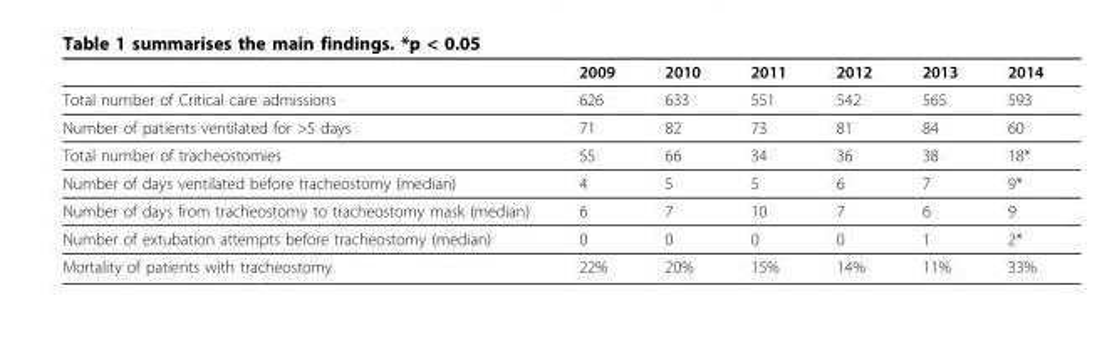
<table><thead><tr><td></td><td>2009</td><td>2010</td><td>2011</td><td>2012</td><td>2013</td><td>2014</td></tr></thead><tbody><tr><td>Total number of Critical care admissions</td><td>626</td><td>633</td><td>551</td><td>542</td><td>565</td><td>593</td></tr><tr><td>Number of patients ventilated for &gt;5 days</td><td>71</td><td>82</td><td>73</td><td>81</td><td>84</td><td>60</td></tr><tr><td>Total number of tracheostomies</td><td>55</td><td>66</td><td>34</td><td>36</td><td>38</td><td>18*</td></tr><tr><td>Number of days ventilated before tracheostomy (median)</td><td>4</td><td>5</td><td>5</td><td>6</td><td>7</td><td>9*</td></tr><tr><td>Number of days from tracheostomy to tracheostomy mask (median)</td><td>6</td><td>7</td><td>10</td><td>7</td><td>6</td><td>9</td></tr><tr><td>Number of extubation attempts before tracheostomy (median)</td><td>0</td><td>0</td><td>0</td><td>0</td><td>1</td><td>2*</td></tr><tr><td>Mortality of patients with tracheostomy</td><td>22%</td><td>20%</td><td>15%</td><td>14%</td><td>11%</td><td>33%</td></tr></tbody></table>